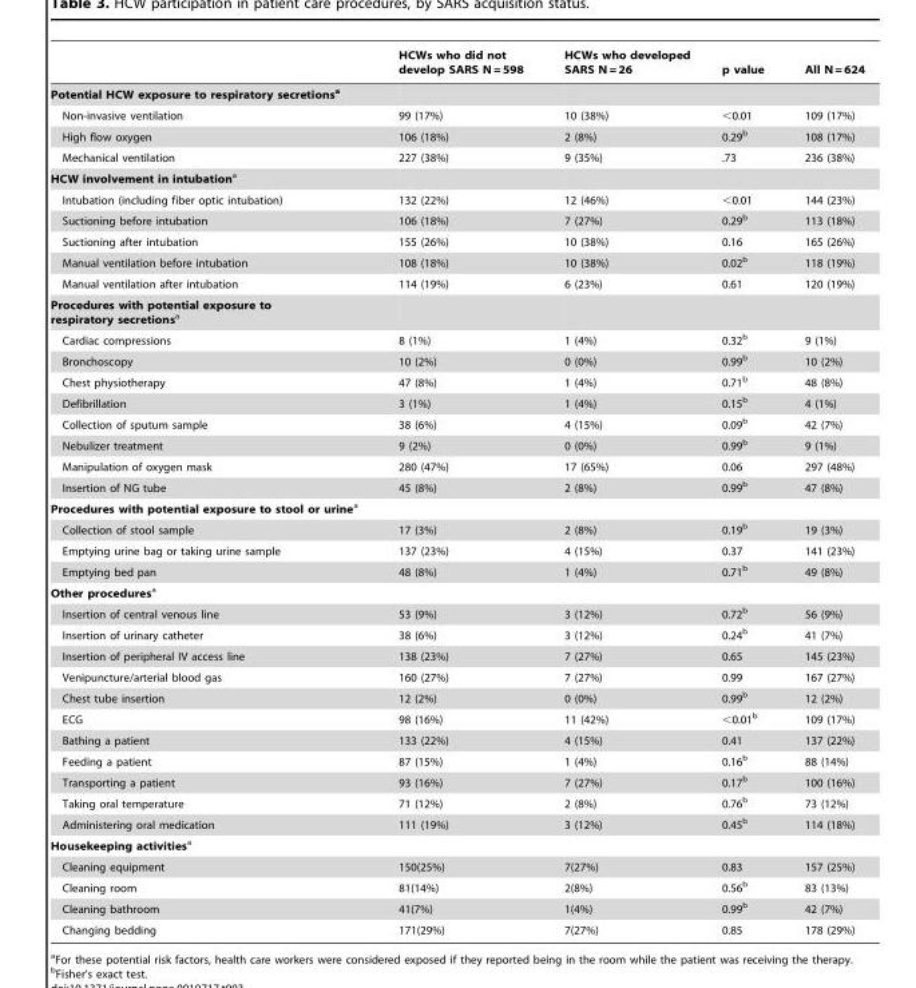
<table><thead><tr><td></td><td>HCWs who did not develop SARS N = 598</td><td>HCWs who developed SARS N = 26</td><td>p value</td><td>All N = 624</td></tr></thead><tbody><tr><td colspan="5">Potential HCW exposure to respiratory secretionsa</td></tr><tr><td>Non-invasive ventilation</td><td>99 (17%)</td><td>10 (38%)</td><td>&lt;0.01</td><td>109 (17%)</td></tr><tr><td>High flow oxygen</td><td>106 (18%)</td><td>2 (8%)</td><td>0.29<sup>b</sup></td><td>108 (17%)</td></tr><tr><td>Mechanical ventilation</td><td>227 (38%)</td><td>9 (35%)</td><td>.73</td><td>236 (38%)</td></tr><tr><td colspan="5">HCW involvement in intubationa</td></tr><tr><td>Intubation (including fiber optic intubation)</td><td>132 (22%)</td><td>12 (46%)</td><td>&lt;0.01</td><td>144 (23%)</td></tr><tr><td>Suctioning before intubation</td><td>106 (18%)</td><td>7 (27%)</td><td>0.29<sup>b</sup></td><td>113 (18%)</td></tr><tr><td>Suctioning after intubation</td><td>155 (26%)</td><td>10 (38%)</td><td>0.16</td><td>165 (26%)</td></tr><tr><td>Manual ventilation before intubation</td><td>108 (18%)</td><td>10 (38%)</td><td>0.02<sup>b</sup></td><td>118 (19%)</td></tr><tr><td>Manual ventilation after intubation</td><td>114 (19%)</td><td>6 (23%)</td><td>0.61</td><td>120 (19%)</td></tr><tr><td colspan="5">Procedures with potential exposure to respiratory secretionsa</td></tr><tr><td>Cardiac compressions</td><td>8 (1%)</td><td>1 (4%)</td><td>0.32<sup>b</sup></td><td>9 (1%)</td></tr><tr><td>Bronchoscopy</td><td>10 (2%)</td><td>0 (0%)</td><td>0.99<sup>b</sup></td><td>10 (2%)</td></tr><tr><td>Chest physiotherapy</td><td>47 (8%)</td><td>1 (4%)</td><td>0.71<sup>b</sup></td><td>48 (8%)</td></tr><tr><td>Defibrillation</td><td>3 (1%)</td><td>1 (4%)</td><td>0.15<sup>b</sup></td><td>4 (1%)</td></tr><tr><td>Collection of sputum sample</td><td>38 (6%)</td><td>4 (15%)</td><td>0.09<sup>b</sup></td><td>42 (7%)</td></tr><tr><td>Nebulizer treatment</td><td>9 (2%)</td><td>0 (0%)</td><td>0.99<sup>b</sup></td><td>9 (1%)</td></tr><tr><td>Manipulation of oxygen mask</td><td>280 (47%)</td><td>17 (65%)</td><td>0.06</td><td>297 (48%)</td></tr><tr><td>Insertion of NG tube</td><td>45 (8%)</td><td>2 (8%)</td><td>0.99<sup>b</sup></td><td>47 (8%)</td></tr><tr><td colspan="5">Procedures with potential exposure to stool or urinea</td></tr><tr><td>Collection of stool sample</td><td>17 (3%)</td><td>2 (8%)</td><td>0.19<sup>b</sup></td><td>19 (3%)</td></tr><tr><td>Emptying urine bag or taking urine sample</td><td>137 (23%)</td><td>4 (15%)</td><td>0.37</td><td>141 (23%)</td></tr><tr><td>Emptying bed pan</td><td>48 (8%)</td><td>1 (4%)</td><td>0.71<sup>b</sup></td><td>49 (8%)</td></tr><tr><td colspan="5">Other proceduresa</td></tr><tr><td>Insertion of central venous line</td><td>53 (9%)</td><td>3 (12%)</td><td>0.72<sup>b</sup></td><td>56 (9%)</td></tr><tr><td>Insertion of urinary catheter</td><td>38 (6%)</td><td>3 (12%)</td><td>0.24<sup>b</sup></td><td>41 (7%)</td></tr><tr><td>Insertion of peripheral IV access line</td><td>138 (23%)</td><td>7 (27%)</td><td>0.65</td><td>145 (23%)</td></tr><tr><td>Venipuncture/arterial blood gas</td><td>160 (27%)</td><td>7 (27%)</td><td>0.99</td><td>167 (27%)</td></tr><tr><td>Chest tube insertion</td><td>12 (2%)</td><td>0 (0%)</td><td>0.99<sup>b</sup></td><td>12 (2%)</td></tr><tr><td>ECG</td><td>98 (16%)</td><td>11 (42%)</td><td>&lt;0.01<sup>b</sup></td><td>109 (17%)</td></tr><tr><td>Bathing a patient</td><td>133 (22%)</td><td>4 (15%)</td><td>0.41</td><td>137 (22%)</td></tr><tr><td>Feeding a patient</td><td>87 (15%)</td><td>1 (4%)</td><td>0.16<sup>b</sup></td><td>88 (14%)</td></tr><tr><td>Transporting a patient</td><td>93 (16%)</td><td>7 (27%)</td><td>0.17<sup>b</sup></td><td>100 (16%)</td></tr><tr><td>Taking oral temperature</td><td>71 (12%)</td><td>2 (8%)</td><td>0.76<sup>b</sup></td><td>73 (12%)</td></tr><tr><td>Administering oral medication</td><td>111 (19%)</td><td>3 (12%)</td><td>0.45<sup>b</sup></td><td>114 (18%)</td></tr><tr><td colspan="5">Housekeeping activitiesa</td></tr><tr><td>Cleaning equipment</td><td>150(25%)</td><td>7(27%)</td><td>0.83</td><td>157 (25%)</td></tr><tr><td>Cleaning room</td><td>81(14%)</td><td>2(8%)</td><td>0.56<sup>b</sup></td><td>83 (13%)</td></tr><tr><td>Cleaning bathroom</td><td>41(7%)</td><td>1(4%)</td><td>0.99<sup>b</sup></td><td>42 (7%)</td></tr><tr><td>Changing bedding</td><td>171(29%)</td><td>7(27%)</td><td>0.85</td><td>178 (29%)</td></tr></tbody></table>